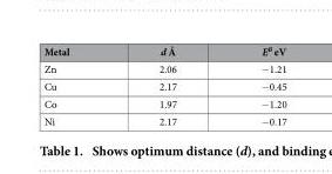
<table><thead><tr><td>Metal</td><td>d Å</td><td>E<sup>B</sup> eV</td></tr></thead><tbody><tr><td>Zn</td><td>2.06</td><td>− 1.21</td></tr><tr><td>Cu</td><td>2.17</td><td>− 0.45</td></tr><tr><td>Co</td><td>1.97</td><td>− 1.20</td></tr><tr><td>Ni</td><td>2.17</td><td>− 0.17</td></tr></tbody></table>